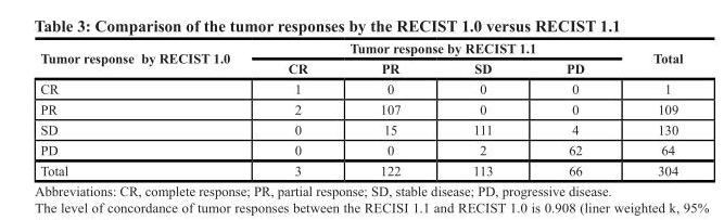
<table><thead><tr><td rowspan="2">Tumor response by RECIST 1.0</td><td colspan="4">Tumor response by RECIST 1.1</td><td rowspan="2">Total</td></tr><tr><td>CR</td><td>PR</td><td>SD</td><td>PD</td></tr></thead><tbody><tr><td>CR</td><td>1</td><td>0</td><td>0</td><td>0</td><td>1</td></tr><tr><td>PR</td><td>2</td><td>107</td><td>0</td><td>0</td><td>109</td></tr><tr><td>SD</td><td>0</td><td>15</td><td>111</td><td>4</td><td>130</td></tr><tr><td>PD</td><td>0</td><td>0</td><td>2</td><td>62</td><td>64</td></tr><tr><td>Total</td><td>3</td><td>122</td><td>113</td><td>66</td><td>304</td></tr></tbody></table>